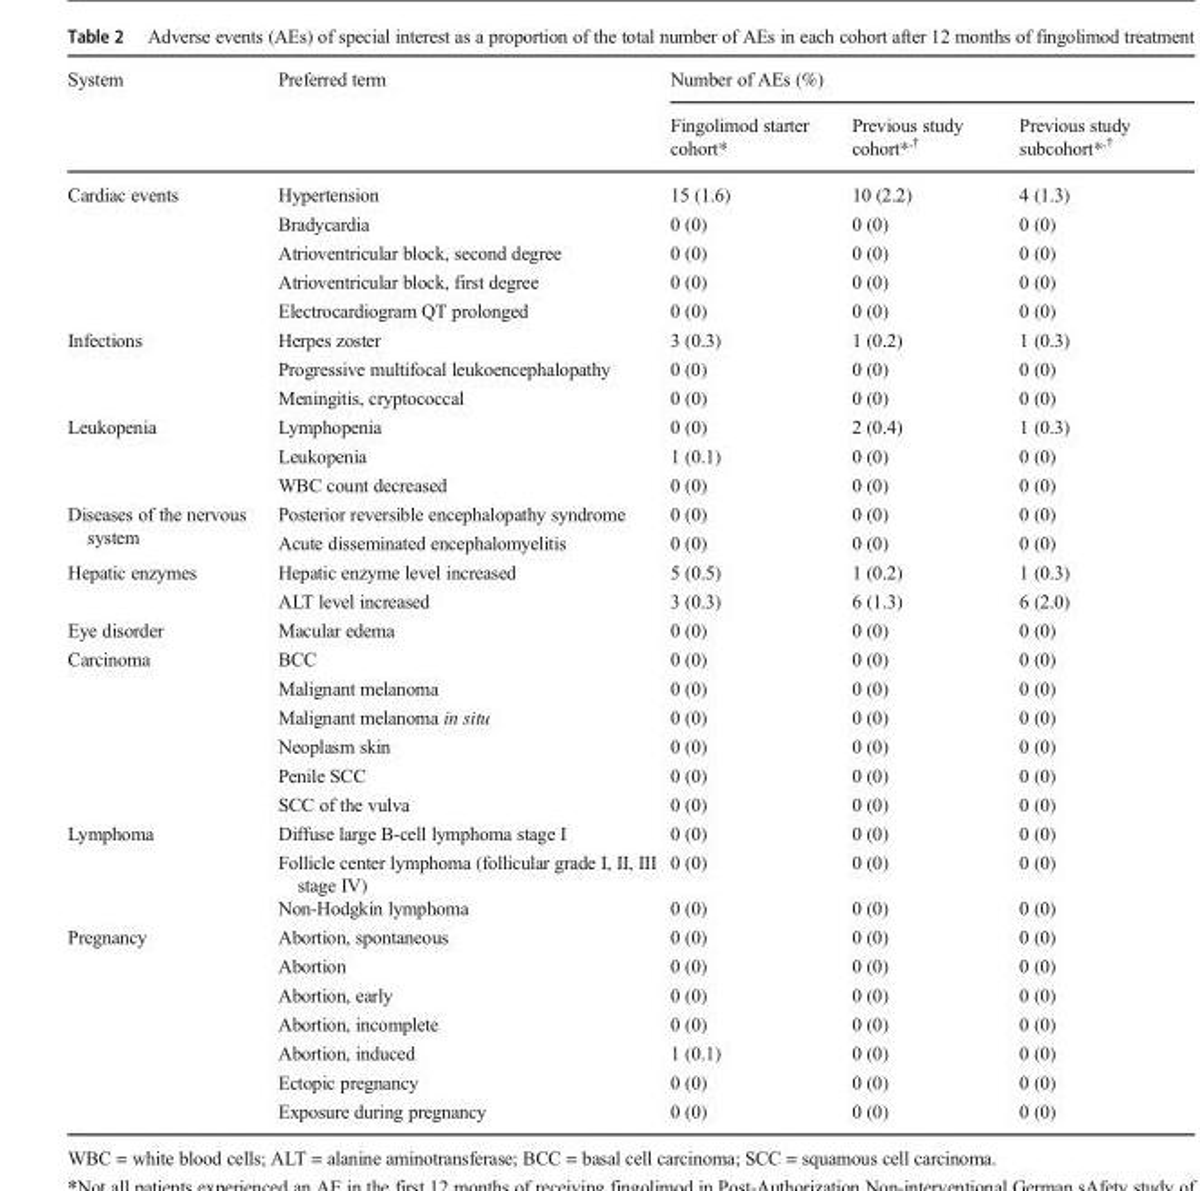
<table><thead><tr><td rowspan="2">System</td><td rowspan="2">Preferred term</td><td colspan="3">Number of AEs (%)</td></tr><tr><td>Fingolimod starter cohort*</td><td>Previous study cohort*<sup>,†</sup></td><td>Previous study subcohort*<sup>,†</sup></td></tr></thead><tbody><tr><td rowspan="5">Cardiac events</td><td>Hypertension</td><td>15 (1.6)</td><td>10 (2.2)</td><td>4 (1.3)</td></tr><tr><td>Bradycardia</td><td>0 (0)</td><td>0 (0)</td><td>0 (0)</td></tr><tr><td>Atrioventricular block, second degree</td><td>0 (0)</td><td>0 (0)</td><td>0 (0)</td></tr><tr><td>Atrioventricular block, first degree</td><td>0 (0)</td><td>0 (0)</td><td>0 (0)</td></tr><tr><td>Electrocardiogram QT prolonged</td><td>0 (0)</td><td>0 (0)</td><td>0 (0)</td></tr><tr><td rowspan="3">Infections</td><td>Herpes zoster</td><td>3 (0.3)</td><td>1 (0.2)</td><td>1 (0.3)</td></tr><tr><td>Progressive multifocal leukoencephalopathy</td><td>0 (0)</td><td>0 (0)</td><td>0 (0)</td></tr><tr><td>Meningitis, cryptococcal</td><td>0 (0)</td><td>0 (0)</td><td>0 (0)</td></tr><tr><td rowspan="3">Leukopenia</td><td>Lymphopenia</td><td>0 (0)</td><td>2 (0.4)</td><td>1 (0.3)</td></tr><tr><td>Leukopenia</td><td>1 (0.1)</td><td>0 (0)</td><td>0 (0)</td></tr><tr><td>WBC count decreased</td><td>0 (0)</td><td>0 (0)</td><td>0 (0)</td></tr><tr><td rowspan="2">Diseases of the nervous system</td><td>Posterior reversible encephalopathy syndrome</td><td>0 (0)</td><td>0 (0)</td><td>0 (0)</td></tr><tr><td>Acute disseminated encephalomyelitis</td><td>0 (0)</td><td>0 (0)</td><td>0 (0)</td></tr><tr><td rowspan="2">Hepatic enzymes</td><td>Hepatic enzyme level increased</td><td>5 (0.5)</td><td>1 (0.2)</td><td>1 (0.3)</td></tr><tr><td>ALT level increased</td><td>3 (0.3)</td><td>6 (1.3)</td><td>6 (2.0)</td></tr><tr><td>Eye disorder</td><td>Macular edema</td><td>0 (0)</td><td>0 (0)</td><td>0 (0)</td></tr><tr><td rowspan="6">Carcinoma</td><td>BCC</td><td>0 (0)</td><td>0 (0)</td><td>0 (0)</td></tr><tr><td>Malignant melanoma</td><td>0 (0)</td><td>0 (0)</td><td>0 (0)</td></tr><tr><td>Malignant melanoma in situ</td><td>0 (0)</td><td>0 (0)</td><td>0 (0)</td></tr><tr><td>Neoplasm skin</td><td>0 (0)</td><td>0 (0)</td><td>0 (0)</td></tr><tr><td>Penile SCC</td><td>0 (0)</td><td>0 (0)</td><td>0 (0)</td></tr><tr><td>SCC of the vulva</td><td>0 (0)</td><td>0 (0)</td><td>0 (0)</td></tr><tr><td rowspan="3">Lymphoma</td><td>Diffuse large B-cell lymphoma stage I</td><td>0 (0)</td><td>0 (0)</td><td>0 (0)</td></tr><tr><td>Follicle center lymphoma (follicular grade I, II, III stage IV)</td><td>0 (0)</td><td>0 (0)</td><td>0 (0)</td></tr><tr><td>Non-Hodgkin lymphoma</td><td>0 (0)</td><td>0 (0)</td><td>0 (0)</td></tr><tr><td rowspan="7">Pregnancy</td><td>Abortion, spontaneous</td><td>0 (0)</td><td>0 (0)</td><td>0 (0)</td></tr><tr><td>Abortion</td><td>0 (0)</td><td>0 (0)</td><td>0 (0)</td></tr><tr><td>Abortion, early</td><td>0 (0)</td><td>0 (0)</td><td>0 (0)</td></tr><tr><td>Abortion, incomplete</td><td>0 (0)</td><td>0 (0)</td><td>0 (0)</td></tr><tr><td>Abortion, induced</td><td>1 (0.1)</td><td>0 (0)</td><td>0 (0)</td></tr><tr><td>Ectopic pregnancy</td><td>0 (0)</td><td>0 (0)</td><td>0 (0)</td></tr><tr><td>Exposure during pregnancy</td><td>0 (0)</td><td>0 (0)</td><td>0 (0)</td></tr></tbody></table>